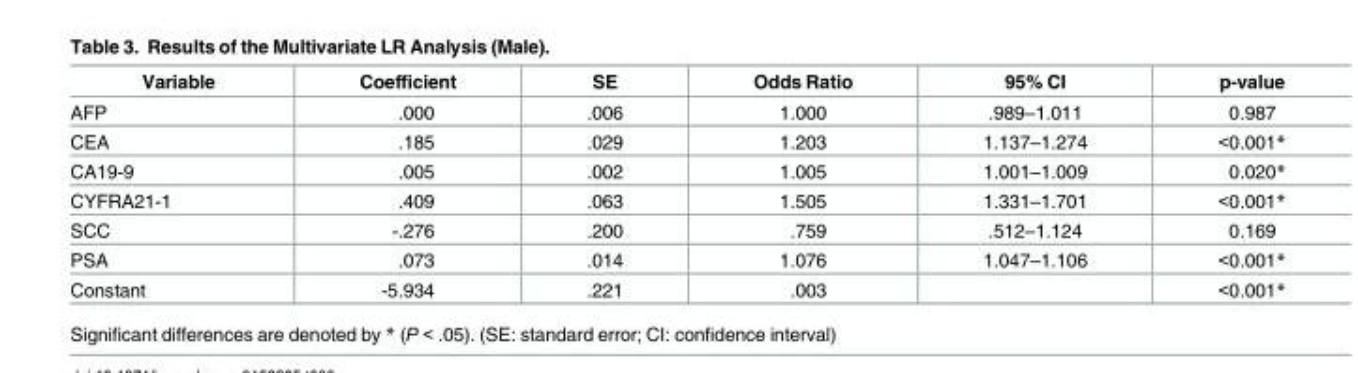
<table><thead><tr><td>Variable</td><td>Coefficient</td><td>SE</td><td>Odds Ratio</td><td>95% CI</td><td>p-value</td></tr></thead><tbody><tr><td>AFP</td><td>.000</td><td>.006</td><td>1.000</td><td>.989–1.011</td><td>0.987</td></tr><tr><td>CEA</td><td>.185</td><td>.029</td><td>1.203</td><td>1.137–1.274</td><td>&lt;0.001*</td></tr><tr><td>CA19-9</td><td>.005</td><td>.002</td><td>1.005</td><td>1.001–1.009</td><td>0.020*</td></tr><tr><td>CYFRA21-1</td><td>.409</td><td>.063</td><td>1.505</td><td>1.331–1.701</td><td>&lt;0.001*</td></tr><tr><td>SCC</td><td>-.276</td><td>.200</td><td>.759</td><td>.512–1.124</td><td>0.169</td></tr><tr><td>PSA</td><td>.073</td><td>.014</td><td>1.076</td><td>1.047–1.106</td><td>&lt;0.001*</td></tr><tr><td>Constant</td><td>-5.934</td><td>.221</td><td>.003</td><td></td><td>&lt;0.001*</td></tr></tbody></table>